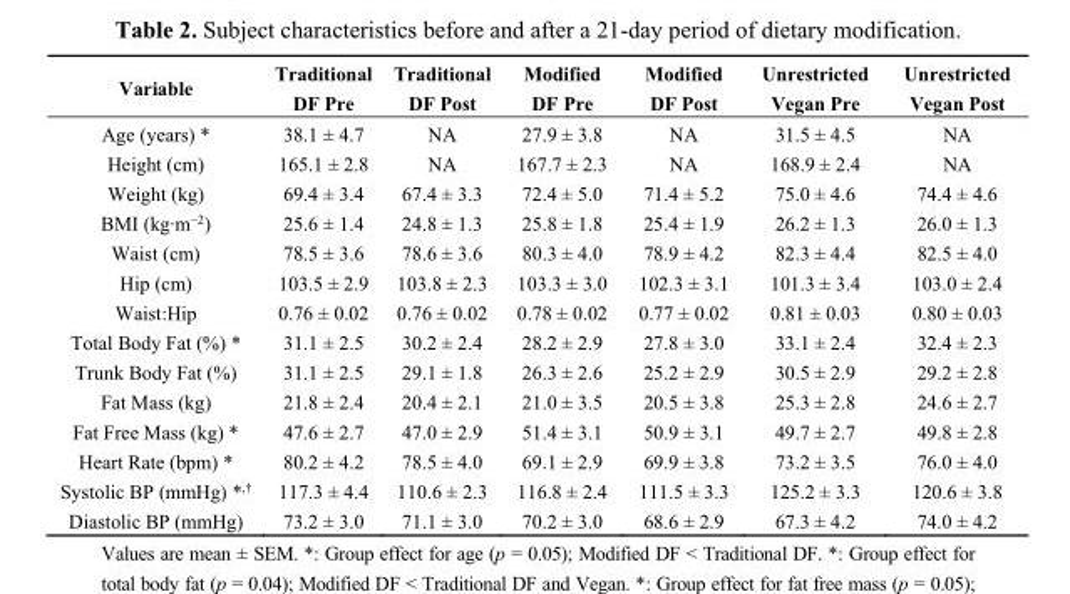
<table><thead><tr><td>Variable</td><td>Traditional DF Pre</td><td>Traditional DF Post</td><td>Modified DF Pre</td><td>Modified DF Post</td><td>Unrestricted Vegan Pre</td><td>Unrestricted Vegan Post</td></tr></thead><tbody><tr><td>Age (years) *</td><td>38.1 ± 4.7</td><td>NA</td><td>27.9 ± 3.8</td><td>NA</td><td>31.5 ± 4.5</td><td>NA</td></tr><tr><td>Height (cm)</td><td>165.1 ± 2.8</td><td>NA</td><td>167.7 ± 2.3</td><td>NA</td><td>168.9 ± 2.4</td><td>NA</td></tr><tr><td>Weight (kg)</td><td>69.4 ± 3.4</td><td>67.4 ± 3.3</td><td>72.4 ± 5.0</td><td>71.4 ± 5.2</td><td>75.0 ± 4.6</td><td>74.4 ± 4.6</td></tr><tr><td>BMI (kg∙m<sup>−2</sup>)</td><td>25.6 ± 1.4</td><td>24.8 ± 1.3</td><td>25.8 ± 1.8</td><td>25.4 ± 1.9</td><td>26.2 ± 1.3</td><td>26.0 ± 1.3</td></tr><tr><td>Waist (cm)</td><td>78.5 ± 3.6</td><td>78.6 ± 3.6</td><td>80.3 ± 4.0</td><td>78.9 ± 4.2</td><td>82.3 ± 4.4</td><td>82.5 ± 4.0</td></tr><tr><td>Hip (cm)</td><td>103.5 ± 2.9</td><td>103.8 ± 2.3</td><td>103.3 ± 3.0</td><td>102.3 ± 3.1</td><td>101.3 ± 3.4</td><td>103.0 ± 2.4</td></tr><tr><td>Waist:Hip</td><td>0.76 ± 0.02</td><td>0.76 ± 0.02</td><td>0.78 ± 0.02</td><td>0.77 ± 0.02</td><td>0.81 ± 0.03</td><td>0.80 ± 0.03</td></tr><tr><td>Total Body Fat (%) *</td><td>31.1 ± 2.5</td><td>30.2 ± 2.4</td><td>28.2 ± 2.9</td><td>27.8 ± 3.0</td><td>33.1 ± 2.4</td><td>32.4 ± 2.3</td></tr><tr><td>Trunk Body Fat (%)</td><td>31.1 ± 2.5</td><td>29.1 ± 1.8</td><td>26.3 ± 2.6</td><td>25.2 ± 2.9</td><td>30.5 ± 2.9</td><td>29.2 ± 2.8</td></tr><tr><td>Fat Mass (kg)</td><td>21.8 ± 2.4</td><td>20.4 ± 2.1</td><td>21.0 ± 3.5</td><td>20.5 ± 3.8</td><td>25.3 ± 2.8</td><td>24.6 ± 2.7</td></tr><tr><td>Fat Free Mass (kg) *</td><td>47.6 ± 2.7</td><td>47.0 ± 2.9</td><td>51.4 ± 3.1</td><td>50.9 ± 3.1</td><td>49.7 ± 2.7</td><td>49.8 ± 2.8</td></tr><tr><td>Heart Rate (bpm) *</td><td>80.2 ± 4.2</td><td>78.5 ± 4.0</td><td>69.1 ± 2.9</td><td>69.9 ± 3.8</td><td>73.2 ± 3.5</td><td>76.0 ± 4.0</td></tr><tr><td>Systolic BP (mmHg) *<sup>,†</sup></td><td>117.3 ± 4.4</td><td>110.6 ± 2.3</td><td>116.8 ± 2.4</td><td>111.5 ± 3.3</td><td>125.2 ± 3.3</td><td>120.6 ± 3.8</td></tr><tr><td>Diastolic BP (mmHg)</td><td>73.2 ± 3.0</td><td>71.1 ± 3.0</td><td>70.2 ± 3.0</td><td>68.6 ± 2.9</td><td>67.3 ± 4.2</td><td>74.0 ± 4.2</td></tr></tbody></table>